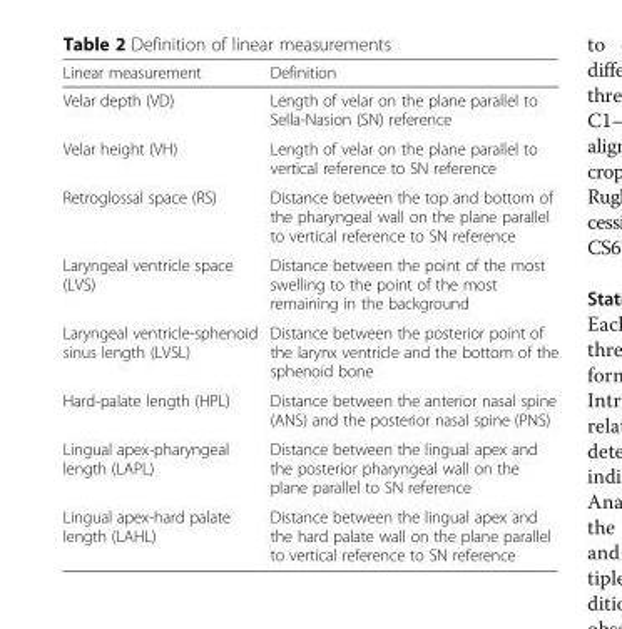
<table><thead><tr><td>Linear measurement</td><td>Definition</td></tr></thead><tbody><tr><td>Velar depth (VD)</td><td>Length of velar on the plane parallel to Sella-Nasion (SN) reference</td></tr><tr><td>Velar height (VH)</td><td>Length of velar on the plane parallel to vertical reference to SN reference</td></tr><tr><td>Retroglossal space (RS)</td><td>Distance between the top and bottom of the pharyngeal wall on the plane parallel to vertical reference to SN reference</td></tr><tr><td>Laryngeal ventricle space (LVS)</td><td>Distance between the point of the most swelling to the point of the most remaining in the background</td></tr><tr><td>Laryngeal ventricle-sphenoid sinus length (LVSL)</td><td>Distance between the posterior point of the larynx ventricle and the bottom of the sphenoid bone</td></tr><tr><td>Hard-palate length (HPL)</td><td>Distance between the anterior nasal spine (ANS) and the posterior nasal spine (PNS)</td></tr><tr><td>Lingual apex-pharyngeal length (LAPL)</td><td>Distance between the lingual apex and the posterior pharyngeal wall on the plane parallel to SN reference</td></tr><tr><td>Lingual apex-hard palate length (LAHL)</td><td>Distance between the lingual apex and the hard palate wall on the plane parallel to vertical reference to SN reference</td></tr></tbody></table>